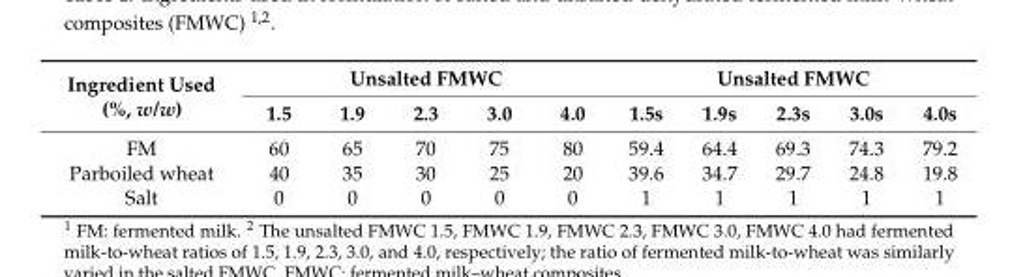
<table><thead><tr><td rowspan="2">Ingredient Used (%, w/w)</td><td colspan="5">Unsalted FMWC</td><td colspan="5">Unsalted FMWC</td></tr><tr><td>1.5</td><td>1.9</td><td>2.3</td><td>3.0</td><td>4.0</td><td>1.5s</td><td>1.9s</td><td>2.3s</td><td>3.0s</td><td>4.0s</td></tr></thead><tbody><tr><td>FM</td><td>60</td><td>65</td><td>70</td><td>75</td><td>80</td><td>59.4</td><td>64.4</td><td>69.3</td><td>74.3</td><td>79.2</td></tr><tr><td>Parboiled wheat</td><td>40</td><td>35</td><td>30</td><td>25</td><td>20</td><td>39.6</td><td>34.7</td><td>29.7</td><td>24.8</td><td>19.8</td></tr><tr><td>Salt</td><td>0</td><td>0</td><td>0</td><td>0</td><td>0</td><td>1</td><td>1</td><td>1</td><td>1</td><td>1</td></tr></tbody></table>